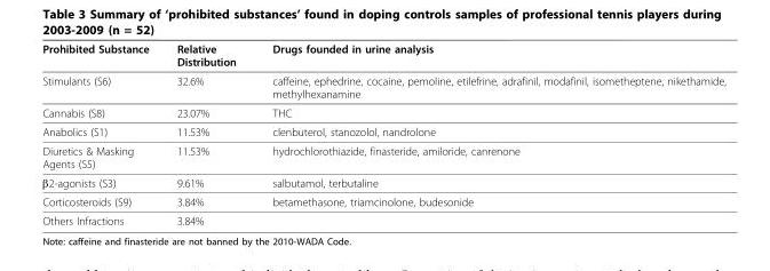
<table><thead><tr><td>Prohibited Substance</td><td>Relative Distribution</td><td>Drugs founded in urine analysis</td></tr></thead><tbody><tr><td>Stimulants (S6)</td><td>32.6%</td><td>caffeine, ephedrine, cocaine, pemoline, etilefrine, adrafinil, modafinil, isometheptene, nikethamide, methylhexanamine</td></tr><tr><td>Cannabis (S8)</td><td>23.07%</td><td>THC</td></tr><tr><td>Anabolics (S1)</td><td>11.53%</td><td>clenbuterol, stanozolol, nandrolone</td></tr><tr><td>Diuretics &amp; Masking Agents (S5)</td><td>11.53%</td><td>hydrochlorothiazide, finasteride, amiloride, canrenone</td></tr><tr><td>β2-agonists (S3)</td><td>9.61%</td><td>salbutamol, terbutaline</td></tr><tr><td>Corticosteroids (S9)</td><td>3.84%</td><td>betamethasone, triamcinolone, budesonide</td></tr><tr><td>Others Infractions</td><td>3.84%</td><td></td></tr></tbody></table>